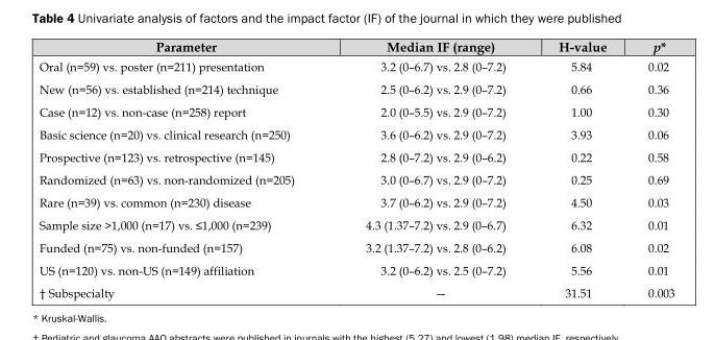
<table><thead><tr><td>Parameter</td><td>Median IF (range)</td><td>H-value</td><td>p*</td></tr></thead><tbody><tr><td>Oral (n=59) vs. poster (n=211) presentation</td><td>3.2 (0–6.7) vs. 2.8 (0–7.2)</td><td>5.84</td><td>0.02</td></tr><tr><td>New (n=56) vs. established (n=214) technique</td><td>2.5 (0–6.2) vs. 2.9 (0–7.2)</td><td>0.66</td><td>0.36</td></tr><tr><td>Case (n=12) vs. non-case (n=258) report</td><td>2.0 (0–5.5) vs. 2.9 (0–7.2)</td><td>1.00</td><td>0.30</td></tr><tr><td>Basic science (n=20) vs. clinical research (n=250)</td><td>3.6 (0–6.2) vs. 2.9 (0–7.2)</td><td>3.93</td><td>0.06</td></tr><tr><td>Prospective (n=123) vs. retrospective (n=145)</td><td>2.8 (0–7.2) vs. 2.9 (0–6.2)</td><td>0.22</td><td>0.58</td></tr><tr><td>Randomized (n=63) vs. non-randomized (n=205)</td><td>3.0 (0–6.7) vs. 2.9 (0–7.2)</td><td>0.25</td><td>0.69</td></tr><tr><td>Rare (n=39) vs. common (n=230) disease</td><td>3.7 (0–6.2) vs. 2.9 (0–7.2)</td><td>4.50</td><td>0.03</td></tr><tr><td>Sample size &gt;1,000 (n=17) vs. ≤1,000 (n=239)</td><td>4.3 (1.37–7.2) vs. 2.9 (0–6.7)</td><td>6.32</td><td>0.01</td></tr><tr><td>Funded (n=75) vs. non-funded (n=157)</td><td>3.2 (1.37–7.2) vs. 2.8 (0–6.2)</td><td>6.08</td><td>0.02</td></tr><tr><td>US (n=120) vs. non-US (n=149) affiliation</td><td>3.2 (0–6.2) vs. 2.5 (0–7.2)</td><td>5.56</td><td>0.01</td></tr><tr><td>† Subspecialty</td><td>—</td><td>31.51</td><td>0.003</td></tr></tbody></table>